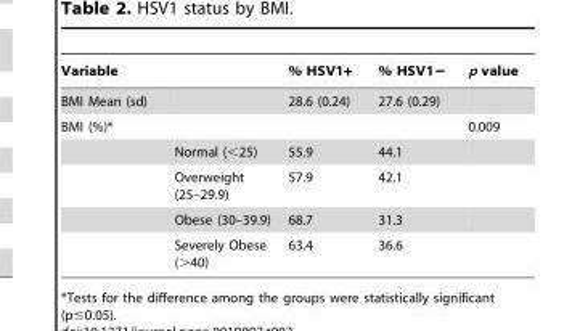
<table><thead><tr><td>Variable</td><td></td><td>% HSV1+</td><td>% HSV1−</td><td>p value</td></tr></thead><tbody><tr><td>BMI Mean (sd)</td><td></td><td>28.6 (0.24)</td><td>27.6 (0.29)</td><td></td></tr><tr><td rowspan="5">BMI (%)*</td><td></td><td></td><td></td><td>0.009</td></tr><tr><td>Normal (&lt;25)</td><td>55.9</td><td>44.1</td><td></td></tr><tr><td>Overweight (25–29.9)</td><td>57.9</td><td>42.1</td><td></td></tr><tr><td>Obese (30–39.9)</td><td>68.7</td><td>31.3</td><td></td></tr><tr><td>Severely Obese (&gt;40)</td><td>63.4</td><td>36.6</td><td></td></tr></tbody></table>